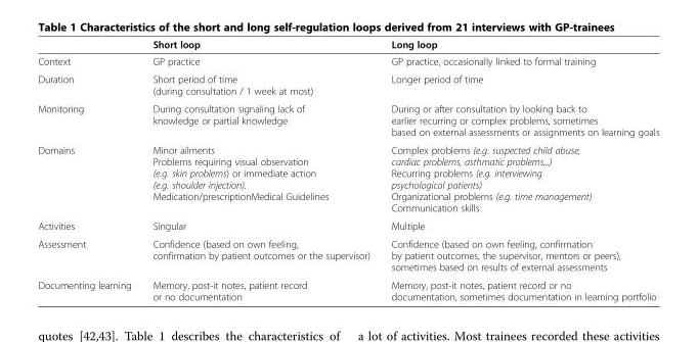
<table><thead><tr><td></td><td>Short loop</td><td>Long loop</td></tr></thead><tbody><tr><td>Context</td><td>GP practice</td><td>GP practice, occasionally linked to formal training</td></tr><tr><td>Duration</td><td>Short period of time (during consultation / 1 week at most)</td><td>Longer period of time</td></tr><tr><td>Monitoring</td><td>During consultation signaling lack of knowledge or partial knowledge</td><td>During or after consultation by looking back to earlier recurring or complex problems, sometimes based on external assessments or assignments on learning goals</td></tr><tr><td>Domains</td><td>Minor ailments Problems requiring visual observation (e.g. skin problems) or immediate action (e.g. shoulder injection). Medication/prescriptionMedical Guidelines</td><td>Complex problems (e.g. suspected child abuse, cardiac problems, asthmatic problems,..) Recurring problems (e.g. interviewing psychological patients) Organizational problems (e.g. time management) Communication skills</td></tr><tr><td>Activities</td><td>Singular</td><td>Multiple</td></tr><tr><td>Assessment</td><td>Confidence (based on own feeling, confirmation by patient outcomes or the supervisor)</td><td>Confidence (based on own feeling, confirmation by patient outcomes, the supervisor, mentors or peers), sometimes based on results of external assessments</td></tr><tr><td>Documenting learning</td><td>Memory, post-it notes, patient record or no documentation</td><td>Memory, post-it notes, patient record or no documentation, sometimes documentation in learning portfolio</td></tr></tbody></table>